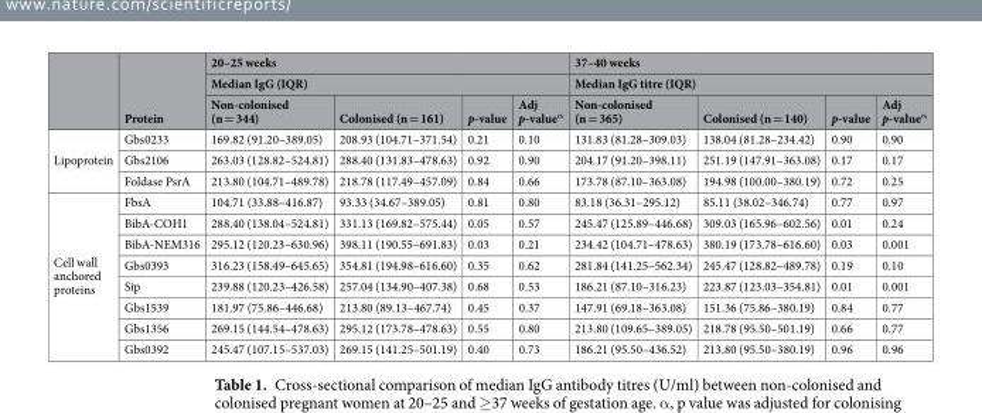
<table><thead><tr><td rowspan="3"></td><td rowspan="3">Protein</td><td rowspan="2" colspan="4">20–25 weeks Median IgG (IQR)</td><td rowspan="2" colspan="4">37–40 weeks Median IgG titre (IQR)</td></tr><tr></tr><tr><td>Non-colonised (n = 344)</td><td>Colonised (n = 161)</td><td>p-value</td><td>Adj p-value<sup>α</sup></td><td>Non-colonised (n = 365)</td><td>Colonised (n = 140)</td><td>p-value</td><td>Adj p-value<sup>α</sup></td></tr></thead><tbody><tr><td rowspan="3">Lipoprotein</td><td>Gbs0233</td><td>169.82 (91.20–389.05)</td><td>208.93 (104.71–371.54)</td><td>0.21</td><td>0.10</td><td>131.83 (81.28–309.03)</td><td>138.04 (81.28–234.42)</td><td>0.90</td><td>0.90</td></tr><tr><td>Gbs2106</td><td>263.03 (128.82–524.81)</td><td>288.40 (131.83–478.63)</td><td>0.92</td><td>0.90</td><td>204.17 (91.20–398.11)</td><td>251.19 (147.91–363.08)</td><td>0.17</td><td>0.17</td></tr><tr><td>Foldase PsrA</td><td>213.80 (104.71–489.78)</td><td>218.78 (117.49–457.09)</td><td>0.84</td><td>0.66</td><td>173.78 (87.10–363.08)</td><td>194.98 (100.00–380.19)</td><td>0.72</td><td>0.25</td></tr><tr><td rowspan="8">Cell wall anchored proteins</td><td>FbsA</td><td>104.71 (33.88–416.87)</td><td>93.33 (34.67–389.05)</td><td>0.81</td><td>0.80</td><td>83.18 (36.31–295.12)</td><td>85.11 (38.02–346.74)</td><td>0.77</td><td>0.97</td></tr><tr><td>BibA-COH1</td><td>288.40 (138.04–524.81)</td><td>331.13 (169.82–575.44)</td><td>0.05</td><td>0.57</td><td>245.47 (125.89–446.68)</td><td>309.03 (165.96–602.56)</td><td>0.01</td><td>0.24</td></tr><tr><td>BibA-NEM316</td><td>295.12 (120.23–630.96)</td><td>398.11 (190.55–691.83)</td><td>0.03</td><td>0.21</td><td>234.42 (104.71–478.63)</td><td>380.19 (173.78–616.60)</td><td>0.03</td><td>0.001</td></tr><tr><td>Gbs0393</td><td>316.23 (158.49–645.65)</td><td>354.81 (194.98–616.60)</td><td>0.35</td><td>0.62</td><td>281.84 (141.25–562.34)</td><td>245.47 (128.82–489.78)</td><td>0.19</td><td>0.10</td></tr><tr><td>Sip</td><td>239.88 (120.23–426.58)</td><td>257.04 (134.90–407.38)</td><td>0.68</td><td>0.53</td><td>186.21 (87.10–316.23)</td><td>223.87 (123.03–354.81)</td><td>0.01</td><td>0.001</td></tr><tr><td>Gbs1539</td><td>181.97 (75.86–446.68)</td><td>213.80 (89.13–467.74)</td><td>0.45</td><td>0.37</td><td>147.91 (69.18–363.08)</td><td>151.36 (75.86–380.19)</td><td>0.84</td><td>0.77</td></tr><tr><td>Gbs1356</td><td>269.15 (144.54–478.63)</td><td>295.12 (173.78–478.63)</td><td>0.55</td><td>0.80</td><td>213.80 (109.65–389.05)</td><td>218.78 (95.50–501.19)</td><td>0.66</td><td>0.77</td></tr><tr><td>Gbs0392</td><td>245.47 (107.15–537.03)</td><td>269.15 (141.25–501.19)</td><td>0.40</td><td>0.73</td><td>186.21 (95.50–436.52)</td><td>213.80 (95.50–380.19)</td><td>0.96</td><td>0.96</td></tr></tbody></table>